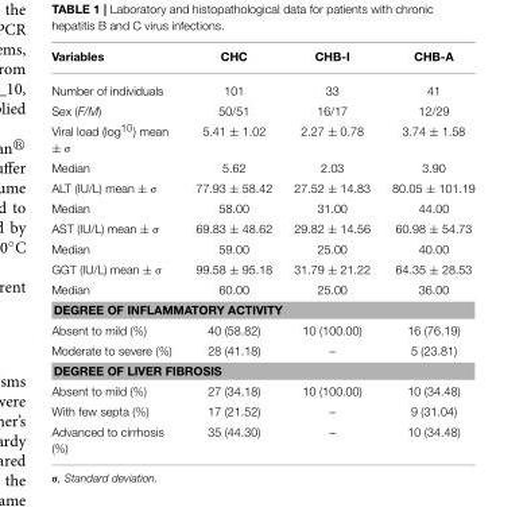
<table><thead><tr><td>Variables</td><td>CHC</td><td>CHB-I</td><td>CHB-A</td></tr></thead><tbody><tr><td>Number of individuals</td><td>101</td><td>33</td><td>41</td></tr><tr><td>Sex (F/M)</td><td>50/51</td><td>16/17</td><td>12/29</td></tr><tr><td>Viral load (log<sup>10</sup>) mean ± σ</td><td>5.41 ± 1.02</td><td>2.27 ± 0.78</td><td>3.74 ± 1.58</td></tr><tr><td>Median</td><td>5.62</td><td>2.03</td><td>3.90</td></tr><tr><td>ALT (IU/L) mean ± σ</td><td>77.93 ± 58.42</td><td>27.52 ± 14.83</td><td>80.05 ± 101.19</td></tr><tr><td>Median</td><td>58.00</td><td>31.00</td><td>44.00</td></tr><tr><td>AST (IU/L) mean ± σ</td><td>69.83 ± 48.62</td><td>29.82 ± 14.56</td><td>60.98 ± 54.73</td></tr><tr><td>Median</td><td>59.00</td><td>25.00</td><td>40.00</td></tr><tr><td>GGT (IU/L) mean ± σ</td><td>99.58 ± 95.18</td><td>31.79 ± 21.22</td><td>64.35 ± 28.53</td></tr><tr><td>Median</td><td>60.00</td><td>25.00</td><td>36.00</td></tr><tr><td colspan="4">DEGREE OF INFLAMMATORY ACTIVITY</td></tr><tr><td>Absent to mild (%)</td><td>40 (58.82)</td><td>10 (100.00)</td><td>16 (76.19)</td></tr><tr><td>Moderate to severe (%)</td><td>28 (41.18)</td><td>–</td><td>5 (23.81)</td></tr><tr><td colspan="4">DEGREE OF LIVER FIBROSIS</td></tr><tr><td>Absent to mild (%)</td><td>27 (34.18)</td><td>10 (100.00)</td><td>10 (34.48)</td></tr><tr><td>With few septa (%)</td><td>17 (21.52)</td><td>–</td><td>9 (31.04)</td></tr><tr><td>Advanced to cirrhosis (%)</td><td>35 (44.30)</td><td>–</td><td>10 (34.48)</td></tr></tbody></table>